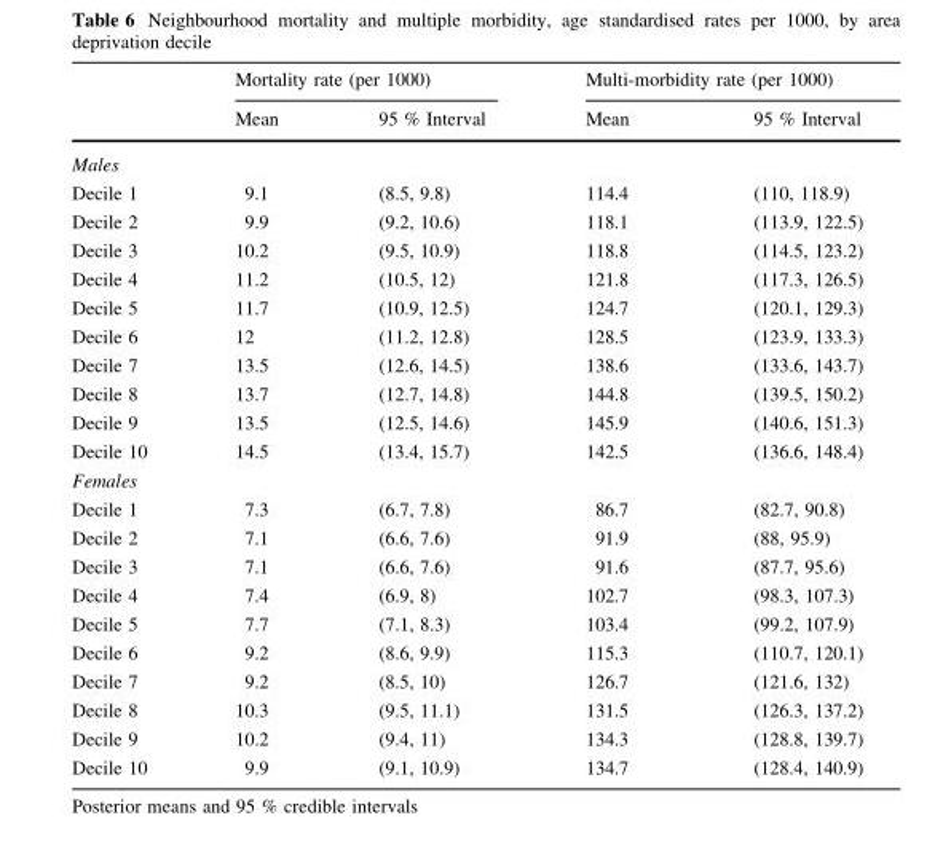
<table><thead><tr><td rowspan="2"></td><td colspan="2">Mortality rate (per 1000)</td><td colspan="2">Multi-morbidity rate (per 1000)</td></tr><tr><td>Mean</td><td>95 % Interval</td><td>Mean</td><td>95 % Interval</td></tr></thead><tbody><tr><td colspan="5">Males</td></tr><tr><td>Decile 1</td><td>9.1</td><td>(8.5, 9.8)</td><td>114.4</td><td>(110, 118.9)</td></tr><tr><td>Decile 2</td><td>9.9</td><td>(9.2, 10.6)</td><td>118.1</td><td>(113.9, 122.5)</td></tr><tr><td>Decile 3</td><td>10.2</td><td>(9.5, 10.9)</td><td>118.8</td><td>(114.5, 123.2)</td></tr><tr><td>Decile 4</td><td>11.2</td><td>(10.5, 12)</td><td>121.8</td><td>(117.3, 126.5)</td></tr><tr><td>Decile 5</td><td>11.7</td><td>(10.9, 12.5)</td><td>124.7</td><td>(120.1, 129.3)</td></tr><tr><td>Decile 6</td><td>12</td><td>(11.2, 12.8)</td><td>128.5</td><td>(123.9, 133.3)</td></tr><tr><td>Decile 7</td><td>13.5</td><td>(12.6, 14.5)</td><td>138.6</td><td>(133.6, 143.7)</td></tr><tr><td>Decile 8</td><td>13.7</td><td>(12.7, 14.8)</td><td>144.8</td><td>(139.5, 150.2)</td></tr><tr><td>Decile 9</td><td>13.5</td><td>(12.5, 14.6)</td><td>145.9</td><td>(140.6, 151.3)</td></tr><tr><td>Decile 10</td><td>14.5</td><td>(13.4, 15.7)</td><td>142.5</td><td>(136.6, 148.4)</td></tr><tr><td colspan="5">Females</td></tr><tr><td>Decile 1</td><td>7.3</td><td>(6.7, 7.8)</td><td>86.7</td><td>(82.7, 90.8)</td></tr><tr><td>Decile 2</td><td>7.1</td><td>(6.6, 7.6)</td><td>91.9</td><td>(88, 95.9)</td></tr><tr><td>Decile 3</td><td>7.1</td><td>(6.6, 7.6)</td><td>91.6</td><td>(87.7, 95.6)</td></tr><tr><td>Decile 4</td><td>7.4</td><td>(6.9, 8)</td><td>102.7</td><td>(98.3, 107.3)</td></tr><tr><td>Decile 5</td><td>7.7</td><td>(7.1, 8.3)</td><td>103.4</td><td>(99.2, 107.9)</td></tr><tr><td>Decile 6</td><td>9.2</td><td>(8.6, 9.9)</td><td>115.3</td><td>(110.7, 120.1)</td></tr><tr><td>Decile 7</td><td>9.2</td><td>(8.5, 10)</td><td>126.7</td><td>(121.6, 132)</td></tr><tr><td>Decile 8</td><td>10.3</td><td>(9.5, 11.1)</td><td>131.5</td><td>(126.3, 137.2)</td></tr><tr><td>Decile 9</td><td>10.2</td><td>(9.4, 11)</td><td>134.3</td><td>(128.8, 139.7)</td></tr><tr><td>Decile 10</td><td>9.9</td><td>(9.1, 10.9)</td><td>134.7</td><td>(128.4, 140.9)</td></tr></tbody></table>